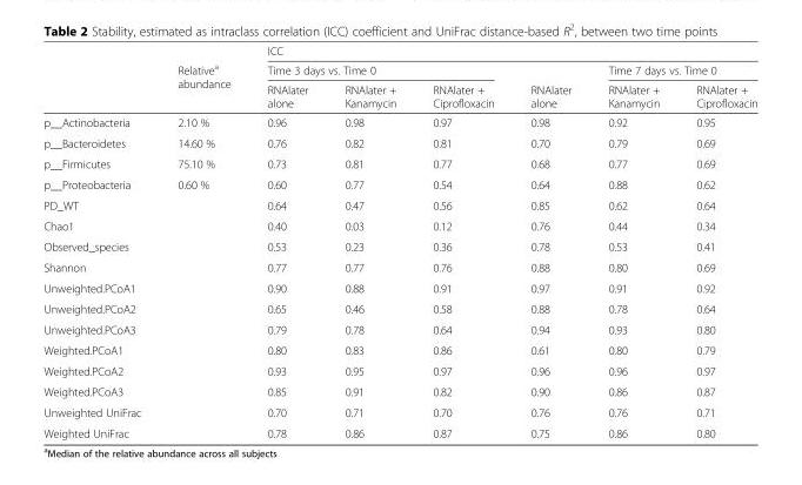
<table><thead><tr><td rowspan="3"></td><td rowspan="3">Relative<sup>a</sup> abundance</td><td colspan="6">ICC</td></tr><tr><td colspan="3">Time 3 days vs. Time 0</td><td rowspan="2">RNAlater alone</td><td colspan="2">Time 7 days vs. Time 0</td></tr><tr><td>RNAlater alone</td><td>RNAlater + Kanamycin</td><td>RNAlater + Ciprofloxacin</td><td>RNAlater + Kanamycin</td><td>RNAlater + Ciprofloxacin</td></tr></thead><tbody><tr><td>p__Actinobacteria</td><td>2.10 %</td><td>0.96</td><td>0.98</td><td>0.97</td><td>0.98</td><td>0.92</td><td>0.95</td></tr><tr><td>p__Bacteroidetes</td><td>14.60 %</td><td>0.76</td><td>0.82</td><td>0.81</td><td>0.70</td><td>0.79</td><td>0.69</td></tr><tr><td>p__Firmicutes</td><td>75.10 %</td><td>0.73</td><td>0.81</td><td>0.77</td><td>0.68</td><td>0.77</td><td>0.69</td></tr><tr><td>p__Proteobacteria</td><td>0.60 %</td><td>0.60</td><td>0.77</td><td>0.54</td><td>0.64</td><td>0.88</td><td>0.62</td></tr><tr><td>PD_WT</td><td></td><td>0.64</td><td>0.47</td><td>0.56</td><td>0.85</td><td>0.62</td><td>0.64</td></tr><tr><td>Chao1</td><td></td><td>0.40</td><td>0.03</td><td>0.12</td><td>0.76</td><td>0.44</td><td>0.34</td></tr><tr><td>Observed_species</td><td></td><td>0.53</td><td>0.23</td><td>0.36</td><td>0.78</td><td>0.53</td><td>0.41</td></tr><tr><td>Shannon</td><td></td><td>0.77</td><td>0.77</td><td>0.76</td><td>0.88</td><td>0.80</td><td>0.69</td></tr><tr><td>Unweighted.PCoA1</td><td></td><td>0.90</td><td>0.88</td><td>0.91</td><td>0.97</td><td>0.91</td><td>0.92</td></tr><tr><td>Unweighted.PCoA2</td><td></td><td>0.65</td><td>0.46</td><td>0.58</td><td>0.88</td><td>0.78</td><td>0.64</td></tr><tr><td>Unweighted.PCoA3</td><td></td><td>0.79</td><td>0.78</td><td>0.64</td><td>0.94</td><td>0.93</td><td>0.80</td></tr><tr><td>Weighted.PCoA1</td><td></td><td>0.80</td><td>0.83</td><td>0.86</td><td>0.61</td><td>0.80</td><td>0.79</td></tr><tr><td>Weighted.PCoA2</td><td></td><td>0.93</td><td>0.95</td><td>0.97</td><td>0.96</td><td>0.96</td><td>0.97</td></tr><tr><td>Weighted.PCoA3</td><td></td><td>0.85</td><td>0.91</td><td>0.82</td><td>0.90</td><td>0.86</td><td>0.87</td></tr><tr><td>Unweighted UniFrac</td><td></td><td>0.70</td><td>0.71</td><td>0.70</td><td>0.76</td><td>0.76</td><td>0.71</td></tr><tr><td>Weighted UniFrac</td><td></td><td>0.78</td><td>0.86</td><td>0.87</td><td>0.75</td><td>0.86</td><td>0.80</td></tr></tbody></table>